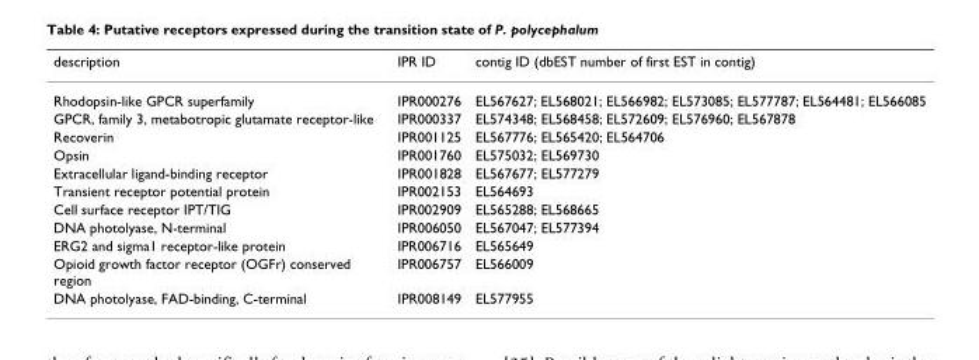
<table><thead><tr><td>description</td><td>IPR ID</td><td>contig ID (dbEST number of first EST in contig)</td></tr></thead><tbody><tr><td>Rhodopsin-like GPCR superfamily</td><td>IPR000276</td><td>EL567627; EL568021; EL566982; EL573085; EL577787; EL564481; EL566085</td></tr><tr><td>GPCR, family 3, metabotropic glutamate receptor-like</td><td>IPR000337</td><td>EL574348; EL568458; EL572609; EL576960; EL567878</td></tr><tr><td>Recoverin</td><td>IPR001125</td><td>EL567776; EL565420; EL564706</td></tr><tr><td>Opsin</td><td>IPR001760</td><td>EL575032; EL569730</td></tr><tr><td>Extracellular ligand-binding receptor</td><td>IPR001828</td><td>EL567677; EL577279</td></tr><tr><td>Transient receptor potential protein</td><td>IPR002153</td><td>EL564693</td></tr><tr><td>Cell surface receptor IPT/TIG</td><td>IPR002909</td><td>EL565288; EL568665</td></tr><tr><td>DNA photolyase, N-terminal</td><td>IPR006050</td><td>EL567047; EL577394</td></tr><tr><td>ERG2 and sigma1 receptor-like protein</td><td>IPR006716</td><td>EL565649</td></tr><tr><td>Opioid growth factor receptor (OGFr) conserved region</td><td>IPR006757</td><td>EL566009</td></tr><tr><td>DNA photolyase, FAD-binding, C-terminal</td><td>IPR008149</td><td>EL577955</td></tr></tbody></table>